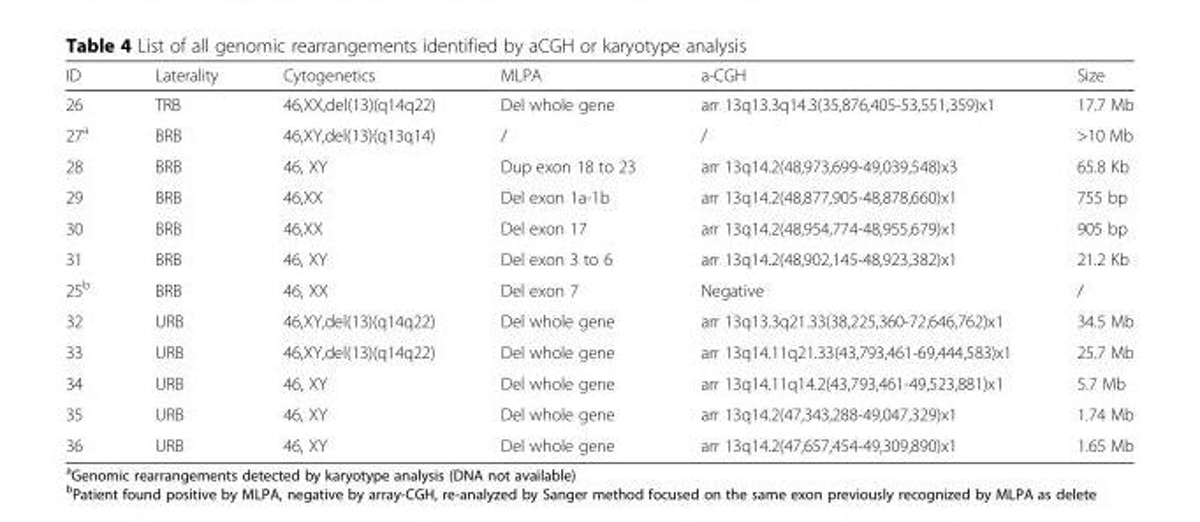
<table><thead><tr><td>ID</td><td>Laterality</td><td>Cytogenetics</td><td>MLPA</td><td>a-CGH</td><td>Size</td></tr></thead><tbody><tr><td>26</td><td>TRB</td><td>46,XX,del(13)(q14q22)</td><td>Del whole gene</td><td>arr 13q13.3q14.3(35,876,405-53,551,359)x1</td><td>17.7 Mb</td></tr><tr><td>27<sup>a</sup></td><td>BRB</td><td>46,XY,del(13)(q13q14)</td><td>/</td><td>/</td><td>&gt;10 Mb</td></tr><tr><td>28</td><td>BRB</td><td>46, XY</td><td>Dup exon 18 to 23</td><td>arr 13q14.2(48,973,699-49,039,548)x3</td><td>65.8 Kb</td></tr><tr><td>29</td><td>BRB</td><td>46,XX</td><td>Del exon 1a-1b</td><td>arr 13q14.2(48,877,905-48,878,660)x1</td><td>755 bp</td></tr><tr><td>30</td><td>BRB</td><td>46,XX</td><td>Del exon 17</td><td>arr 13q14.2(48,954,774-48,955,679)x1</td><td>905 bp</td></tr><tr><td>31</td><td>BRB</td><td>46, XY</td><td>Del exon 3 to 6</td><td>arr 13q14.2(48,902,145-48,923,382)x1</td><td>21.2 Kb</td></tr><tr><td>25<sup>b</sup></td><td>BRB</td><td>46, XX</td><td>Del exon 7</td><td>Negative</td><td>/</td></tr><tr><td>32</td><td>URB</td><td>46,XY,del(13)(q14q22)</td><td>Del whole gene</td><td>arr 13q13.3q21.33(38,225,360-72,646,762)x1</td><td>34.5 Mb</td></tr><tr><td>33</td><td>URB</td><td>46,XY,del(13)(q14q22)</td><td>Del whole gene</td><td>arr 13q14.11q21.33(43,793,461-69,444,583)x1</td><td>25.7 Mb</td></tr><tr><td>34</td><td>URB</td><td>46, XY</td><td>Del whole gene</td><td>arr 13q14.11q14.2(43,793,461-49,523,881)x1</td><td>5.7 Mb</td></tr><tr><td>35</td><td>URB</td><td>46, XY</td><td>Del whole gene</td><td>arr 13q14.2(47,343,288-49,047,329)x1</td><td>1.74 Mb</td></tr><tr><td>36</td><td>URB</td><td>46, XY</td><td>Del whole gene</td><td>arr 13q14.2(47,657,454-49,309,890)x1</td><td>1.65 Mb</td></tr></tbody></table>